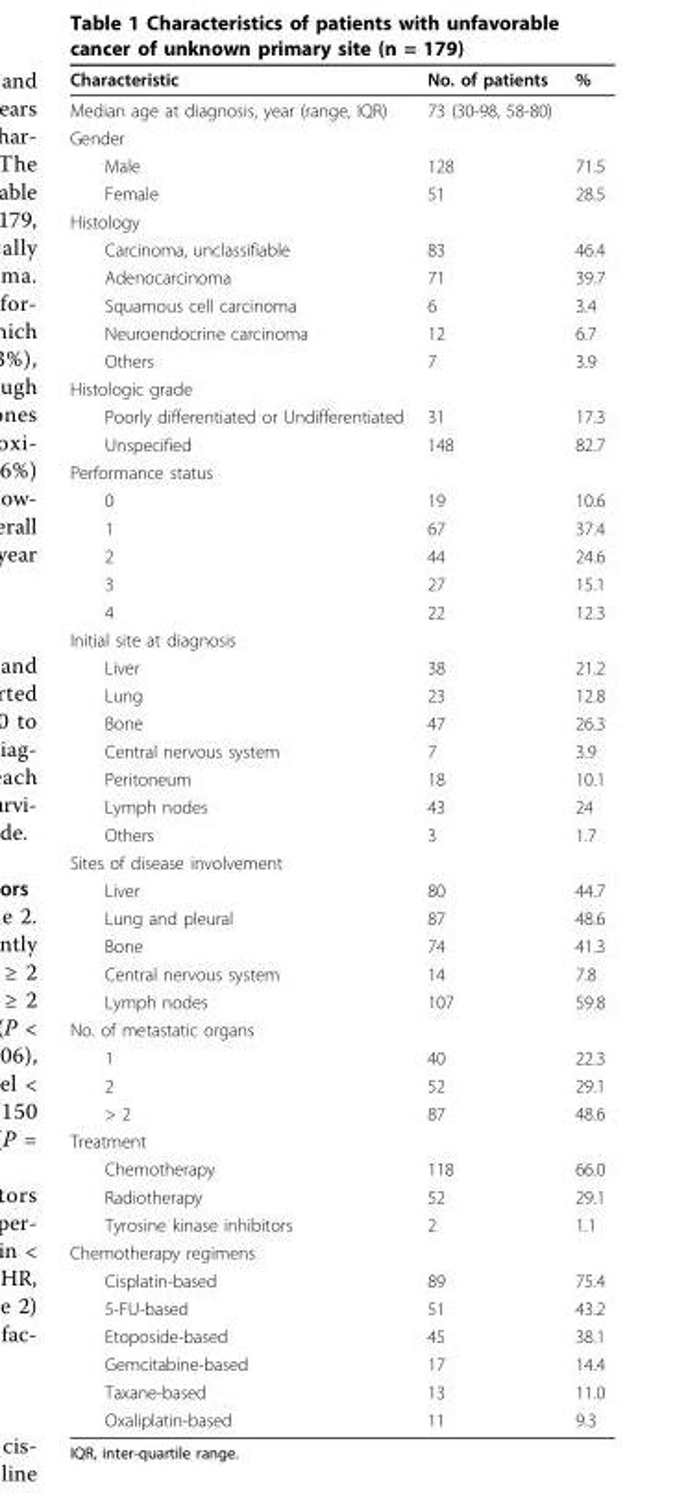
<table><thead><tr><td>Characteristic</td><td>No. of patients</td><td>%</td></tr></thead><tbody><tr><td>Median age at diagnosis, year (range, IQR)</td><td>73 (30-98, 58-80)</td><td></td></tr><tr><td colspan="3">Gender</td></tr><tr><td>Male</td><td>128</td><td>71.5</td></tr><tr><td>Female</td><td>51</td><td>28.5</td></tr><tr><td colspan="3">Histology</td></tr><tr><td>Carcinoma, unclassifiable</td><td>83</td><td>46.4</td></tr><tr><td>Adenocarcinoma</td><td>71</td><td>39.7</td></tr><tr><td>Squamous cell carcinoma</td><td>6</td><td>3.4</td></tr><tr><td>Neuroendocrine carcinoma</td><td>12</td><td>6.7</td></tr><tr><td>Others</td><td>7</td><td>3.9</td></tr><tr><td colspan="3">Histologic grade</td></tr><tr><td>Poorly differentiated or Undifferentiated</td><td>31</td><td>17.3</td></tr><tr><td>Unspecified</td><td>148</td><td>82.7</td></tr><tr><td colspan="3">Performance status</td></tr><tr><td>0</td><td>19</td><td>10.6</td></tr><tr><td>1</td><td>67</td><td>37.4</td></tr><tr><td>2</td><td>44</td><td>24.6</td></tr><tr><td>3</td><td>27</td><td>15.1</td></tr><tr><td>4</td><td>22</td><td>12.3</td></tr><tr><td colspan="3">Initial site at diagnosis</td></tr><tr><td>Liver</td><td>38</td><td>21.2</td></tr><tr><td>Lung</td><td>23</td><td>12.8</td></tr><tr><td>Bone</td><td>47</td><td>26.3</td></tr><tr><td>Central nervous system</td><td>7</td><td>3.9</td></tr><tr><td>Peritoneum</td><td>18</td><td>10.1</td></tr><tr><td>Lymph nodes</td><td>43</td><td>24</td></tr><tr><td>Others</td><td>3</td><td>1.7</td></tr><tr><td colspan="3">Sites of disease involvement</td></tr><tr><td>Liver</td><td>80</td><td>44.7</td></tr><tr><td>Lung and pleural</td><td>87</td><td>48.6</td></tr><tr><td>Bone</td><td>74</td><td>41.3</td></tr><tr><td>Central nervous system</td><td>14</td><td>7.8</td></tr><tr><td>Lymph nodes</td><td>107</td><td>59.8</td></tr><tr><td colspan="3">No. of metastatic organs</td></tr><tr><td>1</td><td>40</td><td>22.3</td></tr><tr><td>2</td><td>52</td><td>29.1</td></tr><tr><td>&gt; 2</td><td>87</td><td>48.6</td></tr><tr><td colspan="3">Treatment</td></tr><tr><td>Chemotherapy</td><td>118</td><td>66.0</td></tr><tr><td>Radiotherapy</td><td>52</td><td>29.1</td></tr><tr><td>Tyrosine kinase inhibitors</td><td>2</td><td>1.1</td></tr><tr><td colspan="3">Chemotherapy regimens</td></tr><tr><td>Cisplatin-based</td><td>89</td><td>75.4</td></tr><tr><td>5-FU-based</td><td>51</td><td>43.2</td></tr><tr><td>Etoposide-based</td><td>45</td><td>38.1</td></tr><tr><td>Gemcitabine-based</td><td>17</td><td>14.4</td></tr><tr><td>Taxane-based</td><td>13</td><td>11.0</td></tr><tr><td>Oxaliplatin-based</td><td>11</td><td>9.3</td></tr></tbody></table>